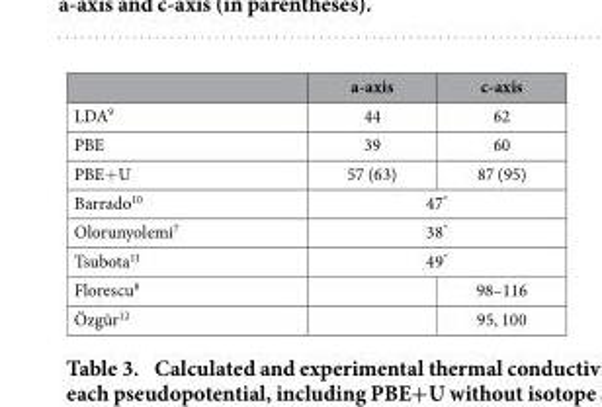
<table><thead><tr><td></td><td>a-axis</td><td>c-axis</td></tr></thead><tbody><tr><td>LDA<sup>9</sup></td><td>44</td><td>62</td></tr><tr><td>PBE</td><td>39</td><td>60</td></tr><tr><td>PBE+ U</td><td>57 (63)</td><td>87 (95)</td></tr><tr><td>Barrado<sup>10</sup></td><td colspan="2">47*</td></tr><tr><td>Olorunyolemi<sup>7</sup></td><td colspan="2">38*</td></tr><tr><td>Tsubota<sup>11</sup></td><td colspan="2">49*</td></tr><tr><td>Florescu<sup>8</sup></td><td></td><td>98–116</td></tr><tr><td>Özgür<sup>12</sup></td><td></td><td>95, 100</td></tr></tbody></table>